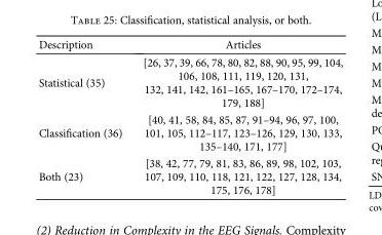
<table><thead><tr><td>Description</td><td>Articles</td></tr></thead><tbody><tr><td>Statistical (35)</td><td>[26, 37, 39, 66, 78, 80, 82, 88, 90, 95, 99, 104, 106, 108, 111, 119, 120, 131, 132, 141, 142, 161–165, 167–170, 172–174, 179, 188]</td></tr><tr><td>Classification (36)</td><td>[40, 41, 58, 84, 85, 87, 91–94, 96, 97, 100, 101, 105, 112–117, 123–126, 129, 130, 133, 135–140, 171, 177]</td></tr><tr><td>Both (23)</td><td>[38, 42, 77, 79, 81, 83, 86, 89, 98, 102, 103, 107, 109, 110, 118, 121, 122, 127, 128, 134, 175, 176, 178]</td></tr></tbody></table>